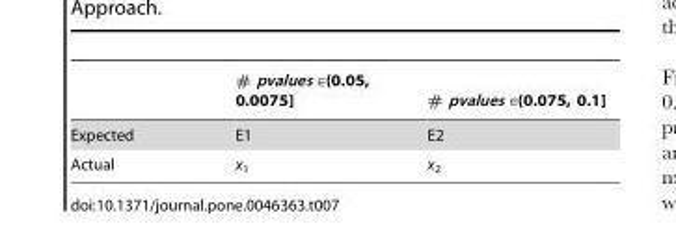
<table><thead><tr><td></td><td># pvalues ∈(0.05, 0.0075]</td><td># pvalues ∈(0.075, 0.1]</td></tr></thead><tbody><tr><td>Expected</td><td>E1</td><td>E2</td></tr><tr><td>Actual</td><td>x<sub>1</sub></td><td>x<sub>2</sub></td></tr></tbody></table>